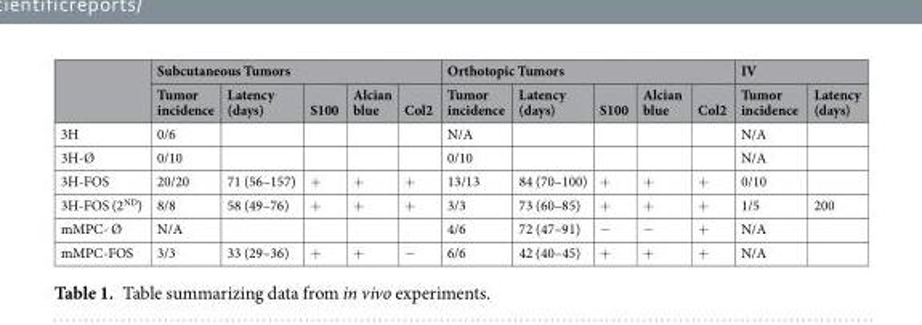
<table><thead><tr><td rowspan="2"></td><td colspan="5">Subcutaneous Tumors</td><td colspan="5">Orthotopic Tumors</td><td colspan="2">IV</td></tr><tr><td>Tumor incidence</td><td>Latency (days)</td><td>S100</td><td>Alcian blue</td><td>Col2</td><td>Tumor incidence</td><td>Latency (days)</td><td>S100</td><td>Alcian blue</td><td>Col2</td><td>Tumor incidence</td><td>Latency (days)</td></tr></thead><tbody><tr><td>3H</td><td>0/6</td><td></td><td></td><td></td><td></td><td>N/A</td><td></td><td></td><td></td><td></td><td>N/A</td><td></td></tr><tr><td>3H-Ø</td><td>0/10</td><td></td><td></td><td></td><td></td><td>0/10</td><td></td><td></td><td></td><td></td><td>N/A</td><td></td></tr><tr><td>3H-FOS</td><td>20/20</td><td>71 (56–157)</td><td>+</td><td>+</td><td>+</td><td>13/13</td><td>84 (70–100)</td><td>+</td><td>+</td><td>+</td><td>0/10</td><td></td></tr><tr><td>3H-FOS (2<sup>ND</sup>)</td><td>8/8</td><td>58 (49–76)</td><td>+</td><td>+</td><td>+</td><td>3/3</td><td>73 (60–85)</td><td>+</td><td>+</td><td>+</td><td>1/5</td><td>200</td></tr><tr><td>mMPC- Ø</td><td>N/A</td><td></td><td></td><td></td><td></td><td>4/6</td><td>72 (47–91)</td><td>−</td><td>−</td><td>+</td><td>N/A</td><td></td></tr><tr><td>mMPC-FOS</td><td>3/3</td><td>33 (29–36)</td><td>+</td><td>+</td><td>−</td><td>6/6</td><td>42 (40–45)</td><td>+</td><td>+</td><td>+</td><td>N/A</td><td></td></tr></tbody></table>